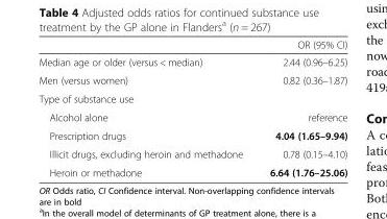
<table><thead><tr><td></td><td>OR (95% CI)</td></tr></thead><tbody><tr><td>Median age or older (versus &lt; median)</td><td>2.44 (0.96–6.25)</td></tr><tr><td>Men (versus women)</td><td>0.82 (0.36–1.87)</td></tr><tr><td colspan="2">Type of substance use</td></tr><tr><td>Alcohol alone</td><td>reference</td></tr><tr><td>Prescription drugs</td><td>4.04 (1.65–9.94)</td></tr><tr><td>Illicit drugs, excluding heroin and methadone</td><td>0.78 (0.15–4.10)</td></tr><tr><td>Heroin or methadone</td><td>6.64 (1.76–25.06)</td></tr></tbody></table>